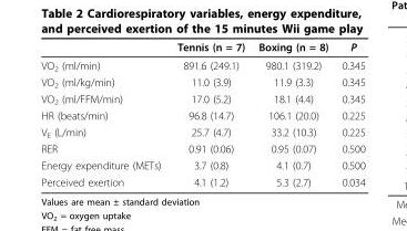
<table><thead><tr><td></td><td>Tennis (n = 7)</td><td>Boxing (n = 8)</td><td>P</td></tr></thead><tbody><tr><td>VO<sub>2</sub> (ml/min)</td><td>891.6 (249.1)</td><td>980.1 (319.2)</td><td>0.345</td></tr><tr><td>VO<sub>2</sub> (ml/kg/min)</td><td>11.0 (3.9)</td><td>11.9 (3.3)</td><td>0.345</td></tr><tr><td>VO<sub>2</sub> (ml/FFM/min)</td><td>17.0 (5.2)</td><td>18.1 (4.4)</td><td>0.345</td></tr><tr><td>HR (beats/min)</td><td>96.8 (14.7)</td><td>106.1 (20.0)</td><td>0.225</td></tr><tr><td>V<sub>E</sub> (L/min)</td><td>25.7 (4.7)</td><td>33.2 (10.3)</td><td>0.225</td></tr><tr><td>RER</td><td>0.91 (0.06)</td><td>0.95 (0.07)</td><td>0.500</td></tr><tr><td>Energy expenditure (METs)</td><td>3.7 (0.8)</td><td>4.1 (0.7)</td><td>0.500</td></tr><tr><td>Perceived exertion</td><td>4.1 (1.2)</td><td>5.3 (2.7)</td><td>0.034</td></tr></tbody></table>